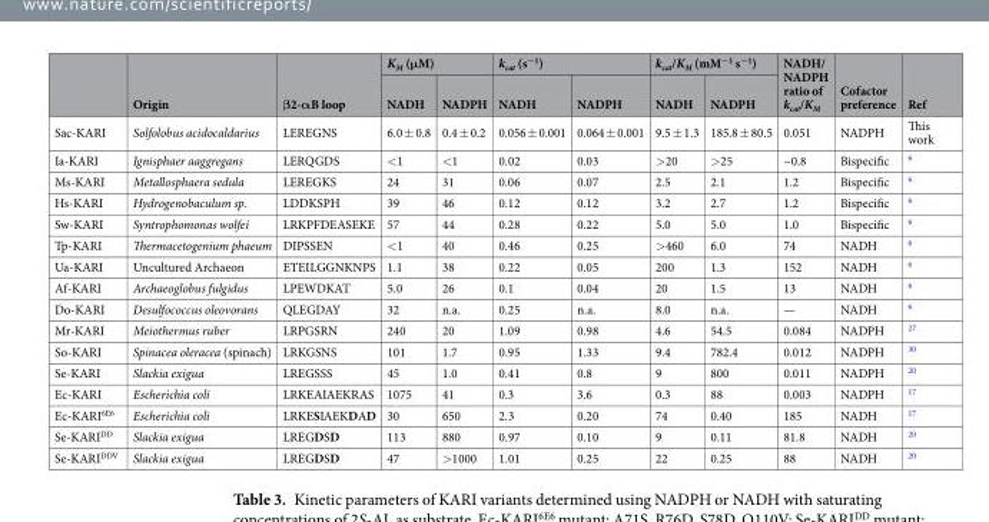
<table><thead><tr><td rowspan="2"></td><td rowspan="2">Origin</td><td rowspan="2">β2-αB loop</td><td colspan="2">K<sub>M</sub> (μM)</td><td colspan="2">k<sub>cat</sub> (s<sup>−1</sup>)</td><td colspan="2">k<sub>cat</sub>/K<sub>M</sub> (mM<sup>−1</sup> s<sup>−1</sup>)</td><td rowspan="2">NADH/ NADPH ratio of k<sub>cat</sub>/K<sub>M</sub></td><td rowspan="2">Cofactor preference</td><td rowspan="2">Ref</td></tr><tr><td>NADH</td><td>NADPH</td><td>NADH</td><td>NADPH</td><td>NADH</td><td>NADPH</td></tr></thead><tbody><tr><td>Sac-KARI</td><td>Solfolobus acidocaldarius</td><td>LEREGNS</td><td>6.0 ± 0.8</td><td>0.4 ± 0.2</td><td>0.056 ± 0.001</td><td>0.064 ± 0.001</td><td>9.5 ± 1.3</td><td>185.8 ± 80.5</td><td>0.051</td><td>NADPH</td><td>This work</td></tr><tr><td>Ia-KARI</td><td>Ignisphaer aaggregans</td><td>LERQGDS</td><td>&lt;1</td><td>&lt;1</td><td>0.02</td><td>0.03</td><td>&gt;20</td><td>&gt;25</td><td>~0.8</td><td>Bispecific</td><td><sup>6</sup></td></tr><tr><td>Ms-KARI</td><td>Metallosphaera sedula</td><td>LEREGKS</td><td>24</td><td>31</td><td>0.06</td><td>0.07</td><td>2.5</td><td>2.1</td><td>1.2</td><td>Bispecific</td><td><sup>6</sup></td></tr><tr><td>Hs-KARI</td><td>Hydrogenobaculum sp.</td><td>LDDKSPH</td><td>39</td><td>46</td><td>0.12</td><td>0.12</td><td>3.2</td><td>2.7</td><td>1.2</td><td>Bispecific</td><td><sup>6</sup></td></tr><tr><td>Sw-KARI</td><td>Syntrophomonas wolfei</td><td>LRKPFDEASEKE</td><td>57</td><td>44</td><td>0.28</td><td>0.22</td><td>5.0</td><td>5.0</td><td>1.0</td><td>Bispecific</td><td><sup>6</sup></td></tr><tr><td>Tp-KARI</td><td>Thermacetogenium phaeum</td><td>DIPSSEN</td><td>&lt;1</td><td>40</td><td>0.46</td><td>0.25</td><td>&gt;460</td><td>6.0</td><td>74</td><td>NADH</td><td><sup>6</sup></td></tr><tr><td>Ua-KARI</td><td>Uncultured Archaeon</td><td>ETEILGGNKNPS</td><td>1.1</td><td>38</td><td>0.22</td><td>0.05</td><td>200</td><td>1.3</td><td>152</td><td>NADH</td><td><sup>6</sup></td></tr><tr><td>Af-KARI</td><td>Archaeoglobus fulgidus</td><td>LPEWDKAT</td><td>5.0</td><td>26</td><td>0.1</td><td>0.04</td><td>20</td><td>1.5</td><td>13</td><td>NADH</td><td><sup>6</sup></td></tr><tr><td>Do-KARI</td><td>Desulfococcus oleovorans</td><td>QLEGDAY</td><td>32</td><td>n.a.</td><td>0.25</td><td>n.a.</td><td>8.0</td><td>n.a.</td><td>—</td><td>NADH</td><td><sup>6</sup></td></tr><tr><td>Mr-KARI</td><td>Meiothermus ruber</td><td>LRPGSRN</td><td>240</td><td>20</td><td>1.09</td><td>0.98</td><td>4.6</td><td>54.5</td><td>0.084</td><td>NADPH</td><td><sup>27</sup></td></tr><tr><td>So-KARI</td><td>Spinacea oleracea (spinach)</td><td>LRKGSNS</td><td>101</td><td>1.7</td><td>0.95</td><td>1.33</td><td>9.4</td><td>782.4</td><td>0.012</td><td>NADPH</td><td><sup>30</sup></td></tr><tr><td>Se-KARI</td><td>Slackia exigua</td><td>LREGSSS</td><td>45</td><td>1.0</td><td>0.41</td><td>0.8</td><td>9</td><td>800</td><td>0.011</td><td>NADPH</td><td><sup>20</sup></td></tr><tr><td>Ec-KARI</td><td>Escherichia coli</td><td>LRKEAIAEKRAS</td><td>1075</td><td>41</td><td>0.3</td><td>3.6</td><td>0.3</td><td>88</td><td>0.003</td><td>NADPH</td><td><sup>17</sup></td></tr><tr><td>Ec-KARI<sup>6E6</sup></td><td>Escherichia coli</td><td>LRKESIAEKDAD</td><td>30</td><td>650</td><td>2.3</td><td>0.20</td><td>74</td><td>0.40</td><td>185</td><td>NADH</td><td><sup>17</sup></td></tr><tr><td>Se-KARI<sup>DD</sup></td><td>Slackia exigua</td><td>LREGDSD</td><td>113</td><td>880</td><td>0.97</td><td>0.10</td><td>9</td><td>0.11</td><td>81.8</td><td>NADH</td><td><sup>20</sup></td></tr><tr><td>Se-KARI<sup>DDV</sup></td><td>Slackia exigua</td><td>LREGDSD</td><td>47</td><td>&gt;1000</td><td>1.01</td><td>0.25</td><td>22</td><td>0.25</td><td>88</td><td>NADH</td><td><sup>20</sup></td></tr></tbody></table>